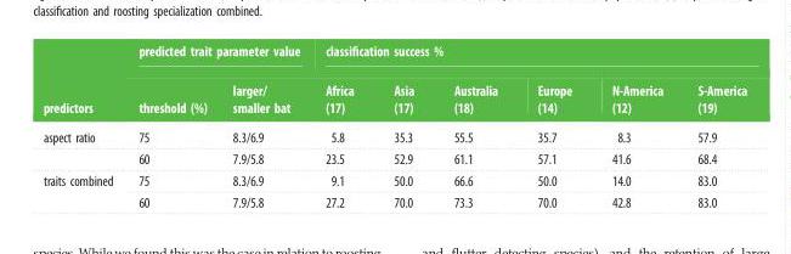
<table><thead><tr><td rowspan="2">predictors</td><td colspan="2">predicted trait parameter value</td><td colspan="6">classification success %</td></tr><tr><td>threshold (%)</td><td>larger/ smaller bat</td><td>Africa (17)</td><td>Asia (17)</td><td>Australia (18)</td><td>Europe (14)</td><td>N-America (12)</td><td>S-America (19)</td></tr></thead><tbody><tr><td rowspan="2">aspect ratio</td><td>75</td><td>8.3/6.9</td><td>5.8</td><td>35.3</td><td>55.5</td><td>35.7</td><td>8.3</td><td>57.9</td></tr><tr><td>60</td><td>7.9/5.8</td><td>23.5</td><td>52.9</td><td>61.1</td><td>57.1</td><td>41.6</td><td>68.4</td></tr><tr><td rowspan="2">traits combined</td><td>75</td><td>8.3/6.9</td><td>9.1</td><td>50.0</td><td>66.6</td><td>50.0</td><td>14.0</td><td>83.0</td></tr><tr><td>60</td><td>7.9/5.8</td><td>27.2</td><td>70.0</td><td>73.3</td><td>70.0</td><td>42.8</td><td>83.0</td></tr></tbody></table>